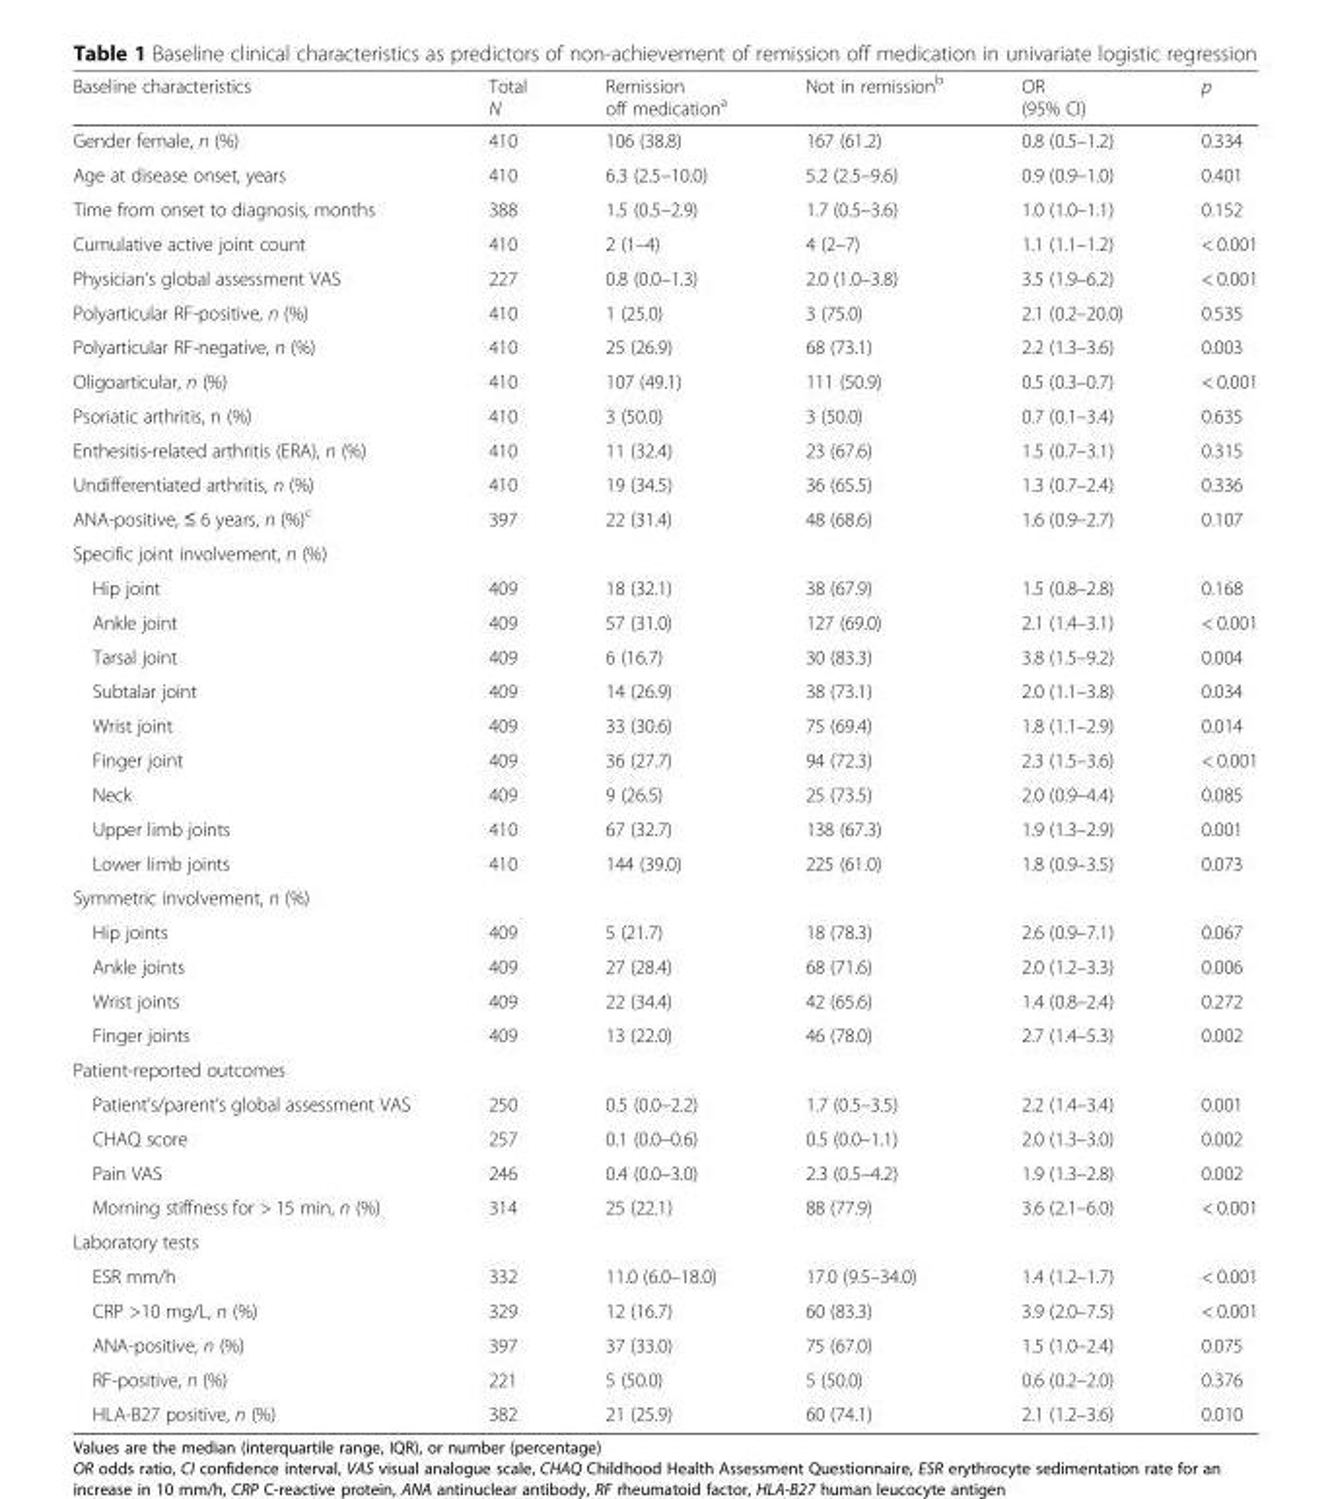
<table><thead><tr><td>Baseline characteristics</td><td>Total N</td><td>Remission off medication<sup>a</sup></td><td>Not in remission<sup>b</sup></td><td>OR (95% CI)</td><td>p</td></tr></thead><tbody><tr><td>Gender female, n (%)</td><td>410</td><td>106 (38.8)</td><td>167 (61.2)</td><td>0.8 (0.5–1.2)</td><td>0.334</td></tr><tr><td>Age at disease onset, years</td><td>410</td><td>6.3 (2.5–10.0)</td><td>5.2 (2.5–9.6)</td><td>0.9 (0.9–1.0)</td><td>0.401</td></tr><tr><td>Time from onset to diagnosis, months</td><td>388</td><td>1.5 (0.5–2.9)</td><td>1.7 (0.5–3.6)</td><td>1.0 (1.0–1.1)</td><td>0.152</td></tr><tr><td>Cumulative active joint count</td><td>410</td><td>2 (1–4)</td><td>4 (2–7)</td><td>1.1 (1.1–1.2)</td><td>&lt; 0.001</td></tr><tr><td>Physician’s global assessment VAS</td><td>227</td><td>0.8 (0.0–1.3)</td><td>2.0 (1.0–3.8)</td><td>3.5 (1.9–6.2)</td><td>&lt; 0.001</td></tr><tr><td>Polyarticular RF-positive, n (%)</td><td>410</td><td>1 (25.0)</td><td>3 (75.0)</td><td>2.1 (0.2–20.0)</td><td>0.535</td></tr><tr><td>Polyarticular RF-negative, n (%)</td><td>410</td><td>25 (26.9)</td><td>68 (73.1)</td><td>2.2 (1.3–3.6)</td><td>0.003</td></tr><tr><td>Oligoarticular, n (%)</td><td>410</td><td>107 (49.1)</td><td>111 (50.9)</td><td>0.5 (0.3–0.7)</td><td>&lt; 0.001</td></tr><tr><td>Psoriatic arthritis, n (%)</td><td>410</td><td>3 (50.0)</td><td>3 (50.0)</td><td>0.7 (0.1–3.4)</td><td>0.635</td></tr><tr><td>Enthesitis-related arthritis (ERA), n (%)</td><td>410</td><td>11 (32.4)</td><td>23 (67.6)</td><td>1.5 (0.7–3.1)</td><td>0.315</td></tr><tr><td>Undifferentiated arthritis, n (%)</td><td>410</td><td>19 (34.5)</td><td>36 (65.5)</td><td>1.3 (0.7–2.4)</td><td>0.336</td></tr><tr><td>ANA-positive, ≤ 6 years, n (%)<sup>c</sup></td><td>397</td><td>22 (31.4)</td><td>48 (68.6)</td><td>1.6 (0.9–2.7)</td><td>0.107</td></tr><tr><td colspan="6">Specific joint involvement, n (%)</td></tr><tr><td>Hip joint</td><td>409</td><td>18 (32.1)</td><td>38 (67.9)</td><td>1.5 (0.8–2.8)</td><td>0.168</td></tr><tr><td>Ankle joint</td><td>409</td><td>57 (31.0)</td><td>127 (69.0)</td><td>2.1 (1.4–3.1)</td><td>&lt; 0.001</td></tr><tr><td>Tarsal joint</td><td>409</td><td>6 (16.7)</td><td>30 (83.3)</td><td>3.8 (1.5–9.2)</td><td>0.004</td></tr><tr><td>Subtalar joint</td><td>409</td><td>14 (26.9)</td><td>38 (73.1)</td><td>2.0 (1.1–3.8)</td><td>0.034</td></tr><tr><td>Wrist joint</td><td>409</td><td>33 (30.6)</td><td>75 (69.4)</td><td>1.8 (1.1–2.9)</td><td>0.014</td></tr><tr><td>Finger joint</td><td>409</td><td>36 (27.7)</td><td>94 (72.3)</td><td>2.3 (1.5–3.6)</td><td>&lt; 0.001</td></tr><tr><td>Neck</td><td>409</td><td>9 (26.5)</td><td>25 (73.5)</td><td>2.0 (0.9–4.4)</td><td>0.085</td></tr><tr><td>Upper limb joints</td><td>410</td><td>67 (32.7)</td><td>138 (67.3)</td><td>1.9 (1.3–2.9)</td><td>0.001</td></tr><tr><td>Lower limb joints</td><td>410</td><td>144 (39.0)</td><td>225 (61.0)</td><td>1.8 (0.9–3.5)</td><td>0.073</td></tr><tr><td colspan="6">Symmetric involvement, n (%)</td></tr><tr><td>Hip joints</td><td>409</td><td>5 (21.7)</td><td>18 (78.3)</td><td>2.6 (0.9–7.1)</td><td>0.067</td></tr><tr><td>Ankle joints</td><td>409</td><td>27 (28.4)</td><td>68 (71.6)</td><td>2.0 (1.2–3.3)</td><td>0.006</td></tr><tr><td>Wrist joints</td><td>409</td><td>22 (34.4)</td><td>42 (65.6)</td><td>1.4 (0.8–2.4)</td><td>0.272</td></tr><tr><td>Finger joints</td><td>409</td><td>13 (22.0)</td><td>46 (78.0)</td><td>2.7 (1.4–5.3)</td><td>0.002</td></tr><tr><td colspan="6">Patient-reported outcomes</td></tr><tr><td>Patient’s/parent’s global assessment VAS</td><td>250</td><td>0.5 (0.0–2.2)</td><td>1.7 (0.5–3.5)</td><td>2.2 (1.4–3.4)</td><td>0.001</td></tr><tr><td>CHAQ score</td><td>257</td><td>0.1 (0.0–0.6)</td><td>0.5 (0.0–1.1)</td><td>2.0 (1.3–3.0)</td><td>0.002</td></tr><tr><td>Pain VAS</td><td>246</td><td>0.4 (0.0–3.0)</td><td>2.3 (0.5–4.2)</td><td>1.9 (1.3–2.8)</td><td>0.002</td></tr><tr><td>Morning stiffness for &gt; 15 min, n (%)</td><td>314</td><td>25 (22.1)</td><td>88 (77.9)</td><td>3.6 (2.1–6.0)</td><td>&lt; 0.001</td></tr><tr><td colspan="6">Laboratory tests</td></tr><tr><td>ESR mm/h</td><td>332</td><td>11.0 (6.0–18.0)</td><td>17.0 (9.5–34.0)</td><td>1.4 (1.2–1.7)</td><td>&lt; 0.001</td></tr><tr><td>CRP &gt;10 mg/L, n (%)</td><td>329</td><td>12 (16.7)</td><td>60 (83.3)</td><td>3.9 (2.0–7.5)</td><td>&lt; 0.001</td></tr><tr><td>ANA-positive, n (%)</td><td>397</td><td>37 (33.0)</td><td>75 (67.0)</td><td>1.5 (1.0–2.4)</td><td>0.075</td></tr><tr><td>RF-positive, n (%)</td><td>221</td><td>5 (50.0)</td><td>5 (50.0)</td><td>0.6 (0.2–2.0)</td><td>0.376</td></tr><tr><td>HLA-B27 positive, n (%)</td><td>382</td><td>21 (25.9)</td><td>60 (74.1)</td><td>2.1 (1.2–3.6)</td><td>0.010</td></tr></tbody></table>